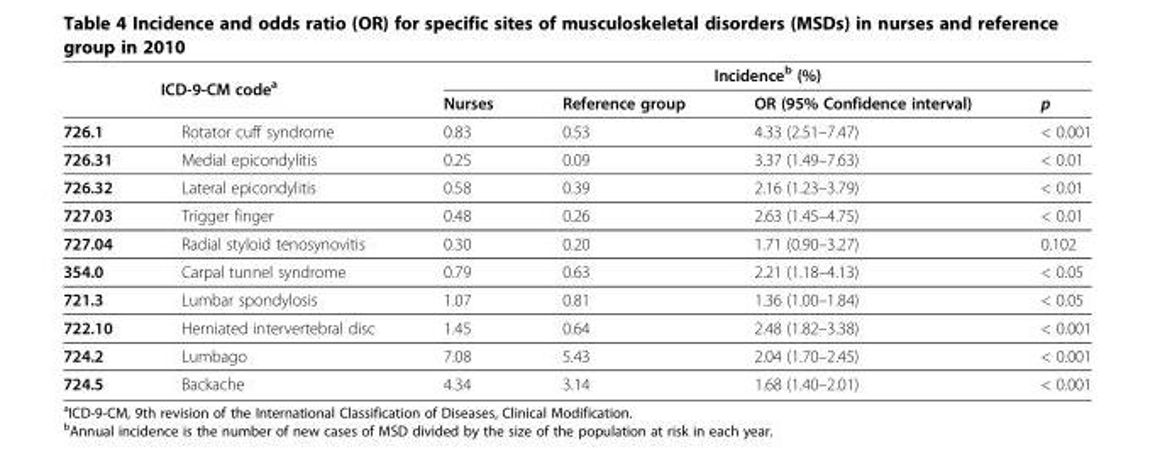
<table><thead><tr><td rowspan="2" colspan="2">ICD-9-CM code<sup>a</sup></td><td colspan="4">Incidence<sup>b</sup> (%)</td></tr><tr><td rowspan="2">Nurses 0.83</td><td rowspan="2">Reference group 0.53</td><td rowspan="2">OR (95% Confidence interval) 4.33 (2.51–7.47)</td><td rowspan="2">p &lt; 0.001</td></tr><tr><td>726.1</td><td>Rotator cuff syndrome</td></tr></thead><tbody><tr><td>726.31</td><td>Medial epicondylitis</td><td>0.25</td><td>0.09</td><td>3.37 (1.49–7.63)</td><td>&lt; 0.01</td></tr><tr><td>726.32</td><td>Lateral epicondylitis</td><td>0.58</td><td>0.39</td><td>2.16 (1.23–3.79)</td><td>&lt; 0.01</td></tr><tr><td>727.03</td><td>Trigger finger</td><td>0.48</td><td>0.26</td><td>2.63 (1.45–4.75)</td><td>&lt; 0.01</td></tr><tr><td>727.04</td><td>Radial styloid tenosynovitis</td><td>0.30</td><td>0.20</td><td>1.71 (0.90–3.27)</td><td>0.102</td></tr><tr><td>354.0</td><td>Carpal tunnel syndrome</td><td>0.79</td><td>0.63</td><td>2.21 (1.18–4.13)</td><td>&lt; 0.05</td></tr><tr><td>721.3</td><td>Lumbar spondylosis</td><td>1.07</td><td>0.81</td><td>1.36 (1.00–1.84)</td><td>&lt; 0.05</td></tr><tr><td>722.10</td><td>Herniated intervertebral disc</td><td>1.45</td><td>0.64</td><td>2.48 (1.82–3.38)</td><td>&lt; 0.001</td></tr><tr><td>724.2</td><td>Lumbago</td><td>7.08</td><td>5.43</td><td>2.04 (1.70–2.45)</td><td>&lt; 0.001</td></tr><tr><td>724.5</td><td>Backache</td><td>4.34</td><td>3.14</td><td>1.68 (1.40–2.01)</td><td>&lt; 0.001</td></tr></tbody></table>